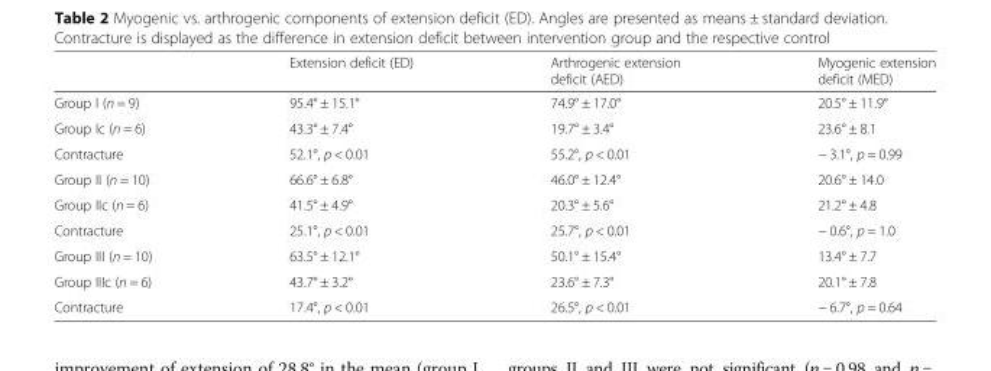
<table><thead><tr><td></td><td>Extension deficit (ED)</td><td>Arthrogenic extension deficit (AED)</td><td>Myogenic extension deficit (MED)</td></tr></thead><tbody><tr><td>Group I (n = 9)</td><td>95.4° ± 15.1°</td><td>74.9° ± 17.0°</td><td>20.5° ± 11.9°</td></tr><tr><td>Group Ic (n = 6)</td><td>43.3° ± 7.4°</td><td>19.7° ± 3.4°</td><td>23.6° ± 8.1</td></tr><tr><td>Contracture</td><td>52.1°, p &lt; 0.01</td><td>55.2°, p &lt; 0.01</td><td>− 3.1°, p = 0.99</td></tr><tr><td>Group II (n = 10)</td><td>66.6° ± 6.8°</td><td>46.0° ± 12.4°</td><td>20.6° ± 14.0</td></tr><tr><td>Group IIc (n = 6)</td><td>41.5° ± 4.9°</td><td>20.3° ± 5.6°</td><td>21.2° ± 4.8</td></tr><tr><td>Contracture</td><td>25.1°, p &lt; 0.01</td><td>25.7°, p &lt; 0.01</td><td>− 0.6°, p = 1.0</td></tr><tr><td>Group III (n = 10)</td><td>63.5° ± 12.1°</td><td>50.1° ± 15.4°</td><td>13.4° ± 7.7</td></tr><tr><td>Group IIIc (n = 6)</td><td>43.7° ± 3.2°</td><td>23.6° ± 7.3°</td><td>20.1° ± 7.8</td></tr><tr><td>Contracture</td><td>17.4°, p &lt; 0.01</td><td>26.5°, p &lt; 0.01</td><td>− 6.7°, p = 0.64</td></tr></tbody></table>